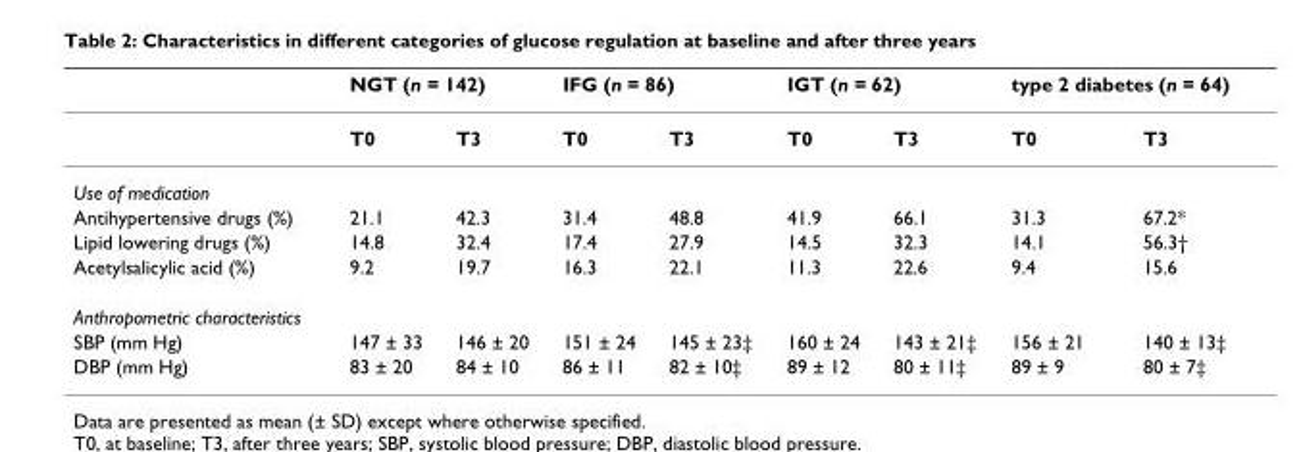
<table><thead><tr><td rowspan="2"></td><td colspan="2">NGT (n = 142)</td><td colspan="2">IFG (n = 86)</td><td colspan="2">IGT (n = 62)</td><td colspan="2">type 2 diabetes (n = 64)</td></tr><tr><td>T0</td><td>T3</td><td>T0</td><td>T3</td><td>T0</td><td>T3</td><td>T0</td><td>T3</td></tr></thead><tbody><tr><td colspan="9">Use of medication</td></tr><tr><td>Antihypertensive drugs (%)</td><td>21.1</td><td>42.3</td><td>31.4</td><td>48.8</td><td>41.9</td><td>66.1</td><td>31.3</td><td>67.2*</td></tr><tr><td>Lipid lowering drugs (%)</td><td>14.8</td><td>32.4</td><td>17.4</td><td>27.9</td><td>14.5</td><td>32.3</td><td>14.1</td><td>56.3†</td></tr><tr><td>Acetylsalicylic acid (%)</td><td>9.2</td><td>19.7</td><td>16.3</td><td>22.1</td><td>11.3</td><td>22.6</td><td>9.4</td><td>15.6</td></tr><tr><td colspan="9">Anthropometric characteristics</td></tr><tr><td>SBP (mm Hg)</td><td>147 ± 33</td><td>146 ± 20</td><td>151 ± 24</td><td>145 ± 23‡</td><td>160 ± 24</td><td>143 ± 21‡</td><td>156 ± 21</td><td>140 ± 13‡</td></tr><tr><td>DBP (mm Hg)</td><td>83 ± 20</td><td>84 ± 10</td><td>86 ± 11</td><td>82 ± 10‡</td><td>89 ± 12</td><td>80 ± 11‡</td><td>89 ± 9</td><td>80 ± 7‡</td></tr></tbody></table>